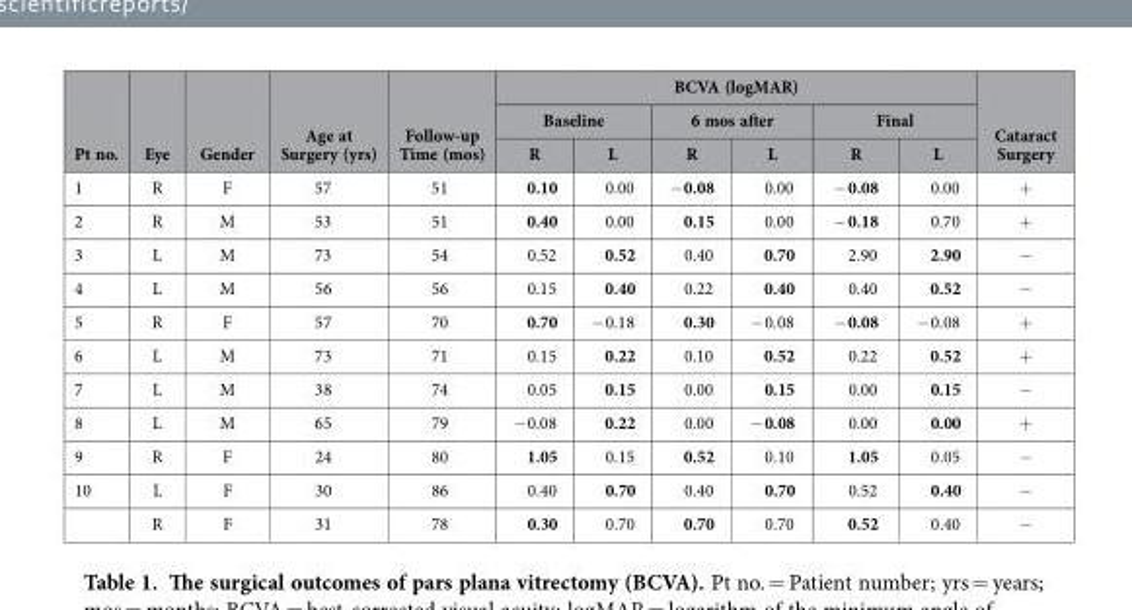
<table><thead><tr><td rowspan="3">Pt no.</td><td rowspan="3">Eye</td><td rowspan="3">Gender</td><td rowspan="3">Age at Surgery (yrs)</td><td rowspan="3">Follow-up Time (mos)</td><td colspan="6">BCVA (logMAR)</td><td rowspan="3">Cataract Surgery</td></tr><tr><td colspan="2">Baseline</td><td colspan="2">6 mos after</td><td colspan="2">Final</td></tr><tr><td>R</td><td>L</td><td>R</td><td>L</td><td>R</td><td>L</td></tr></thead><tbody><tr><td>1</td><td>R</td><td>F</td><td>57</td><td>51</td><td>0.10</td><td>0.00</td><td>− 0.08</td><td>0.00</td><td>− 0.08</td><td>0.00</td><td>+</td></tr><tr><td>2</td><td>R</td><td>M</td><td>53</td><td>51</td><td>0.40</td><td>0.00</td><td>0.15</td><td>0.00</td><td>− 0.18</td><td>0.70</td><td>+</td></tr><tr><td>3</td><td>L</td><td>M</td><td>73</td><td>54</td><td>0.52</td><td>0.52</td><td>0.40</td><td>0.70</td><td>2.90</td><td>2.90</td><td>−</td></tr><tr><td>4</td><td>L</td><td>M</td><td>56</td><td>56</td><td>0.15</td><td>0.40</td><td>0.22</td><td>0.40</td><td>0.40</td><td>0.52</td><td>−</td></tr><tr><td>5</td><td>R</td><td>F</td><td>57</td><td>70</td><td>0.70</td><td>− 0.18</td><td>0.30</td><td>− 0.08</td><td>− 0.08</td><td>− 0.08</td><td>+</td></tr><tr><td>6</td><td>L</td><td>M</td><td>73</td><td>71</td><td>0.15</td><td>0.22</td><td>0.10</td><td>0.52</td><td>0.22</td><td>0.52</td><td>+</td></tr><tr><td>7</td><td>L</td><td>M</td><td>38</td><td>74</td><td>0.05</td><td>0.15</td><td>0.00</td><td>0.15</td><td>0.00</td><td>0.15</td><td>−</td></tr><tr><td>8</td><td>L</td><td>M</td><td>65</td><td>79</td><td>− 0.08</td><td>0.22</td><td>0.00</td><td>− 0.08</td><td>0.00</td><td>0.00</td><td>+</td></tr><tr><td>9</td><td>R</td><td>F</td><td>24</td><td>80</td><td>1.05</td><td>0.15</td><td>0.52</td><td>0.10</td><td>1.05</td><td>0.05</td><td>−</td></tr><tr><td rowspan="2">10</td><td>L</td><td>F</td><td>30</td><td>86</td><td>0.40</td><td>0.70</td><td>0.40</td><td>0.70</td><td>0.52</td><td>0.40</td><td>−</td></tr><tr><td>R</td><td>F</td><td>31</td><td>78</td><td>0.30</td><td>0.70</td><td>0.70</td><td>0.70</td><td>0.52</td><td>0.40</td><td>−</td></tr></tbody></table>